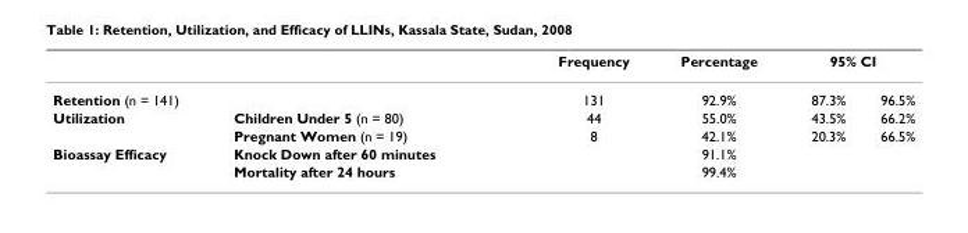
<table><thead><tr><td></td><td></td><td rowspan="2">Frequency 131</td><td rowspan="2">Percentage 92.9%</td><td colspan="2">95% CI</td></tr><tr><td colspan="2">Retention (n = 141)</td><td>87.3%</td><td>96.5%</td></tr></thead><tbody><tr><td rowspan="2">Utilization</td><td>Children Under 5 (n = 80)</td><td>44</td><td>55.0%</td><td>43.5%</td><td>66.2%</td></tr><tr><td>Pregnant Women (n = 19)</td><td>8</td><td>42.1%</td><td>20.3%</td><td>66.5%</td></tr><tr><td rowspan="2">Bioassay Efficacy</td><td>Knock Down after 60 minutes</td><td></td><td>91.1%</td><td></td><td></td></tr><tr><td>Mortality after 24 hours</td><td></td><td>99.4%</td><td></td><td></td></tr></tbody></table>